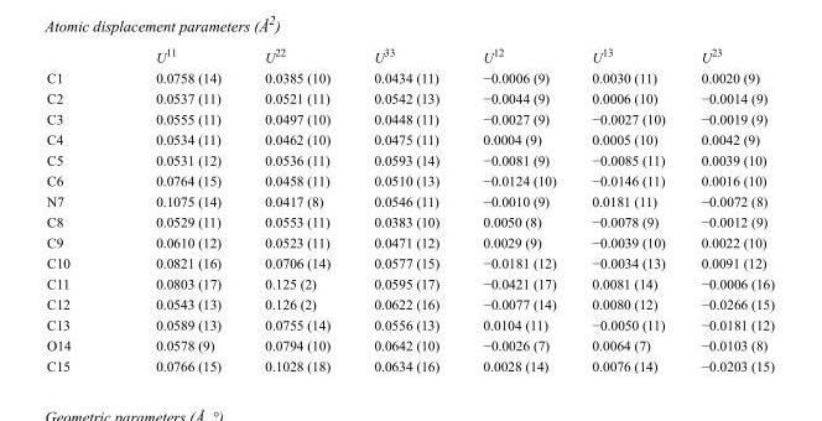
<table><thead><tr><td></td><td>U<sup>11</sup></td><td>U<sup>22</sup></td><td>U<sup>33</sup></td><td>U<sup>12</sup></td><td>U<sup>13</sup></td><td>U<sup>23</sup></td></tr></thead><tbody><tr><td>C1</td><td>0.0758 (14)</td><td>0.0385 (10)</td><td>0.0434 (11)</td><td>−0.0006 (9)</td><td>0.0030 (11)</td><td>0.0020 (9)</td></tr><tr><td>C2</td><td>0.0537 (11)</td><td>0.0521 (11)</td><td>0.0542 (13)</td><td>−0.0044 (9)</td><td>0.0006 (10)</td><td>−0.0014 (9)</td></tr><tr><td>C3</td><td>0.0555 (11)</td><td>0.0497 (10)</td><td>0.0448 (11)</td><td>−0.0027 (9)</td><td>−0.0027 (10)</td><td>−0.0019 (9)</td></tr><tr><td>C4</td><td>0.0534 (11)</td><td>0.0462 (10)</td><td>0.0475 (11)</td><td>0.0004 (9)</td><td>0.0005 (10)</td><td>0.0042 (9)</td></tr><tr><td>C5</td><td>0.0531 (12)</td><td>0.0536 (11)</td><td>0.0593 (14)</td><td>−0.0081 (9)</td><td>−0.0085 (11)</td><td>0.0039 (10)</td></tr><tr><td>C6</td><td>0.0764 (15)</td><td>0.0458 (11)</td><td>0.0510 (13)</td><td>−0.0124 (10)</td><td>−0.0146 (11)</td><td>0.0016 (10)</td></tr><tr><td>N7</td><td>0.1075 (14)</td><td>0.0417 (8)</td><td>0.0546 (11)</td><td>−0.0010 (9)</td><td>0.0181 (11)</td><td>−0.0072 (8)</td></tr><tr><td>C8</td><td>0.0529 (11)</td><td>0.0553 (11)</td><td>0.0383 (10)</td><td>0.0050 (8)</td><td>−0.0078 (9)</td><td>−0.0012 (9)</td></tr><tr><td>C9</td><td>0.0610 (12)</td><td>0.0523 (11)</td><td>0.0471 (12)</td><td>0.0029 (9)</td><td>−0.0039 (10)</td><td>0.0022 (10)</td></tr><tr><td>C10</td><td>0.0821 (16)</td><td>0.0706 (14)</td><td>0.0577 (15)</td><td>−0.0181 (12)</td><td>−0.0034 (13)</td><td>0.0091 (12)</td></tr><tr><td>C11</td><td>0.0803 (17)</td><td>0.125 (2)</td><td>0.0595 (17)</td><td>−0.0421 (17)</td><td>0.0081 (14)</td><td>−0.0006 (16)</td></tr><tr><td>C12</td><td>0.0543 (13)</td><td>0.126 (2)</td><td>0.0622 (16)</td><td>−0.0077 (14)</td><td>0.0080 (12)</td><td>−0.0266 (15)</td></tr><tr><td>C13</td><td>0.0589 (13)</td><td>0.0755 (14)</td><td>0.0556 (13)</td><td>0.0104 (11)</td><td>−0.0050 (11)</td><td>−0.0181 (12)</td></tr><tr><td>O14</td><td>0.0578 (9)</td><td>0.0794 (10)</td><td>0.0642 (10)</td><td>−0.0026 (7)</td><td>0.0064 (7)</td><td>−0.0103 (8)</td></tr><tr><td>C15</td><td>0.0766 (15)</td><td>0.1028 (18)</td><td>0.0634 (16)</td><td>0.0028 (14)</td><td>0.0076 (14)</td><td>−0.0203 (15)</td></tr></tbody></table>